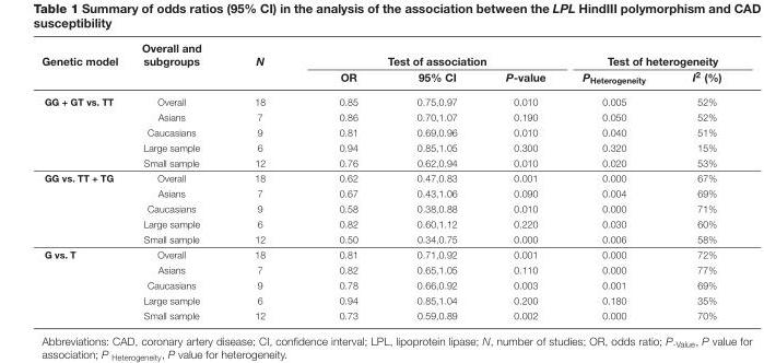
<table><thead><tr><td rowspan="2">Genetic model</td><td rowspan="2">Overall and subgroups</td><td rowspan="2">N</td><td colspan="3">Test of association</td><td colspan="2">Test of heterogeneity</td></tr><tr><td>OR</td><td>95% CI</td><td>P-value</td><td>P<sub>Heterogeneity</sub></td><td>I<sup>2</sup> (%)</td></tr></thead><tbody><tr><td rowspan="5">GG + GT vs. TT</td><td>Overall</td><td>18</td><td>0.85</td><td>0.75,0.97</td><td>0.010</td><td>0.005</td><td>52%</td></tr><tr><td>Asians</td><td>7</td><td>0.86</td><td>0.70,1.07</td><td>0.190</td><td>0.050</td><td>52%</td></tr><tr><td>Caucasians</td><td>9</td><td>0.81</td><td>0.69,0.96</td><td>0.010</td><td>0.040</td><td>51%</td></tr><tr><td>Large sample</td><td>6</td><td>0.94</td><td>0.85,1.05</td><td>0.300</td><td>0.320</td><td>15%</td></tr><tr><td>Small sample</td><td>12</td><td>0.76</td><td>0.62,0.94</td><td>0.010</td><td>0.020</td><td>53%</td></tr><tr><td rowspan="5">GG vs. TT + TG</td><td>Overall</td><td>18</td><td>0.62</td><td>0.47,0.83</td><td>0.001</td><td>0.000</td><td>67%</td></tr><tr><td>Asians</td><td>7</td><td>0.67</td><td>0.43,1.06</td><td>0.090</td><td>0.004</td><td>69%</td></tr><tr><td>Caucasians</td><td>9</td><td>0.58</td><td>0.38,0.88</td><td>0.010</td><td>0.000</td><td>71%</td></tr><tr><td>Large sample</td><td>6</td><td>0.82</td><td>0.60,1.12</td><td>0.220</td><td>0.030</td><td>60%</td></tr><tr><td>Small sample</td><td>12</td><td>0.50</td><td>0.34,0.75</td><td>0.000</td><td>0.006</td><td>58%</td></tr><tr><td rowspan="5">G vs. T</td><td>Overall</td><td>18</td><td>0.81</td><td>0.71,0.92</td><td>0.001</td><td>0.000</td><td>72%</td></tr><tr><td>Asians</td><td>7</td><td>0.82</td><td>0.65,1.05</td><td>0.110</td><td>0.000</td><td>77%</td></tr><tr><td>Caucasians</td><td>9</td><td>0.78</td><td>0.66,0.92</td><td>0.003</td><td>0.001</td><td>69%</td></tr><tr><td>Large sample</td><td>6</td><td>0.94</td><td>0.85,1.04</td><td>0.200</td><td>0.180</td><td>35%</td></tr><tr><td>Small sample</td><td>12</td><td>0.73</td><td>0.59,0.89</td><td>0.002</td><td>0.000</td><td>70%</td></tr></tbody></table>